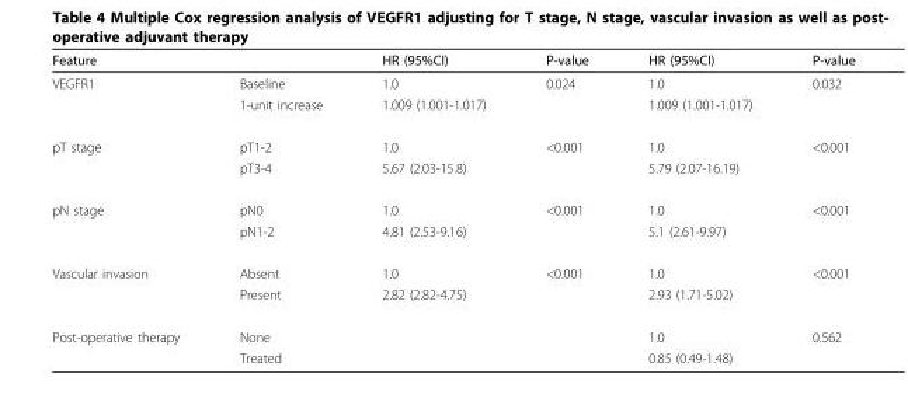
<table><thead><tr><td>Feature</td><td></td><td>HR (95%CI)</td><td>P-value</td><td>HR (95%CI)</td><td>P-value</td></tr></thead><tbody><tr><td rowspan="2">VEGFR1</td><td>Baseline</td><td>1.0</td><td>0.024</td><td>1.0</td><td>0.032</td></tr><tr><td>1-unit increase</td><td>1.009 (1.001-1.017)</td><td></td><td>1.009 (1.001-1.017)</td><td></td></tr><tr><td rowspan="2">pT stage</td><td>pT1-2</td><td>1.0</td><td>&lt;0.001</td><td>1.0</td><td>&lt;0.001</td></tr><tr><td>pT3-4</td><td>5.67 (2.03-15.8)</td><td></td><td>5.79 (2.07-16.19)</td><td></td></tr><tr><td rowspan="2">pN stage</td><td>pN0</td><td>1.0</td><td>&lt;0.001</td><td>1.0</td><td>&lt;0.001</td></tr><tr><td>pN1-2</td><td>4.81 (2.53-9.16)</td><td></td><td>5.1 (2.61-9.97)</td><td></td></tr><tr><td rowspan="2">Vascular invasion</td><td>Absent</td><td>1.0</td><td>&lt;0.001</td><td>1.0</td><td>&lt;0.001</td></tr><tr><td>Present</td><td>2.82 (2.82-4.75)</td><td></td><td>2.93 (1.71-5.02)</td><td></td></tr><tr><td rowspan="2">Post-operative therapy</td><td>None</td><td></td><td></td><td>1.0</td><td>0.562</td></tr><tr><td>Treated</td><td></td><td></td><td>0.85 (0.49-1.48)</td><td></td></tr></tbody></table>